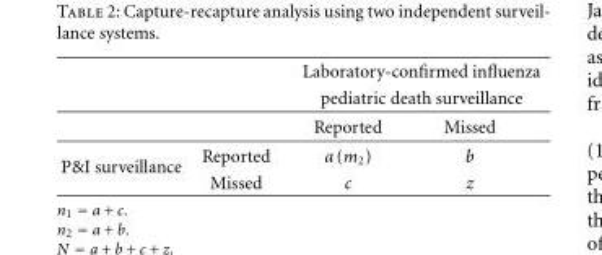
<table><thead><tr><td rowspan="3"></td><td rowspan="3"></td><td rowspan="2" colspan="2">Laboratory-confirmed influenza pediatric death surveillance</td></tr><tr></tr><tr><td>Reported</td><td>Missed</td></tr></thead><tbody><tr><td rowspan="2">P&amp;I surveillance</td><td>Reported</td><td>a(m<sub>2</sub>)</td><td>b</td></tr><tr><td>Missed</td><td>c</td><td>z</td></tr></tbody></table>